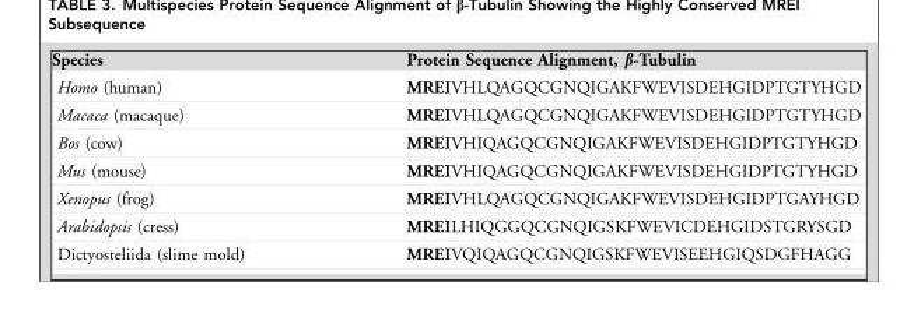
<table><thead><tr><td>Species</td><td>Protein Sequence Alignment, β-Tubulin</td></tr></thead><tbody><tr><td>Homo (human)</td><td>MREIVHLQAGQCGNQIGAKFWEVISDEHGIDPTGTYHGD</td></tr><tr><td>Macaca (macaque)</td><td>MREIVHLQAGQCGNQIGAKFWEVISDEHGIDPTGTYHGD</td></tr><tr><td>Bos (cow)</td><td>MREIVHIQAGQCGNQIGAKFWEVISDEHGIDPTGTYHGD</td></tr><tr><td>Mus (mouse)</td><td>MREIVHIQAGQCGNQIGAKFWEVISDEHGIDPTGTYHGD</td></tr><tr><td>Xenopus (frog)</td><td>MREIVHLQAGQCGNQIGAKFWEVISDEHGIDPTGAYHGD</td></tr><tr><td>Arabidopsis (cress)</td><td>MREILHIQGGQCGNQIGSKFWEVICDEHGIDSTGRYSGD</td></tr><tr><td>Dictyosteliida (slime mold)</td><td>MREIVQIQAGQCGNQIGSKFWEVISEEHGIQSDGFHAGG</td></tr></tbody></table>